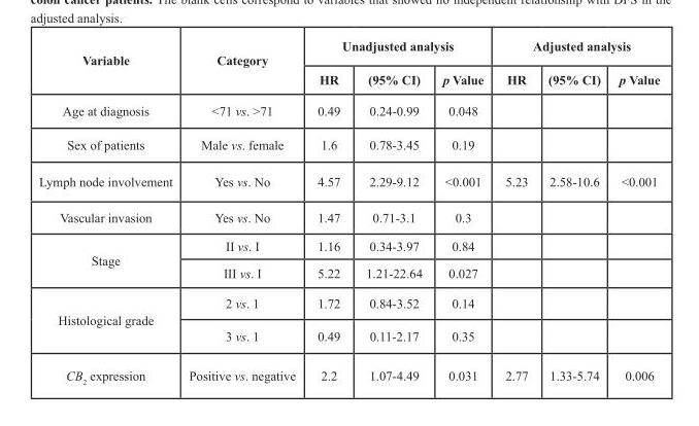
<table><thead><tr><td rowspan="2">Variable</td><td rowspan="2">Category</td><td colspan="3">Unadjusted analysis</td><td colspan="3">Adjusted analysis</td></tr><tr><td>HR</td><td>(95% CI)</td><td>p Value</td><td>HR</td><td>(95% CI)</td><td>p Value</td></tr></thead><tbody><tr><td>Age at diagnosis</td><td>&lt;71 vs. &gt;71</td><td>0.49</td><td>0.24-0.99</td><td>0.048</td><td></td><td></td><td></td></tr><tr><td>Sex of patients</td><td>Male vs. female</td><td>1.6</td><td>0.78-3.45</td><td>0.19</td><td></td><td></td><td></td></tr><tr><td>Lymph node involvement</td><td>Yes vs. No</td><td>4.57</td><td>2.29-9.12</td><td>&lt;0.001</td><td>5.23</td><td>2.58-10.6</td><td>&lt;0.001</td></tr><tr><td>Vascular invasion</td><td>Yes vs. No</td><td>1.47</td><td>0.71-3.1</td><td>0.3</td><td></td><td></td><td></td></tr><tr><td rowspan="2">Stage</td><td>II vs. I</td><td>1.16</td><td>0.34-3.97</td><td>0.84</td><td></td><td></td><td></td></tr><tr><td>III vs. I</td><td>5.22</td><td>1.21-22.64</td><td>0.027</td><td></td><td></td><td></td></tr><tr><td rowspan="2">Histological grade</td><td>2 vs. 1</td><td>1.72</td><td>0.84-3.52</td><td>0.14</td><td></td><td></td><td></td></tr><tr><td>3 vs. 1</td><td>0.49</td><td>0.11-2.17</td><td>0.35</td><td></td><td></td><td></td></tr><tr><td>CB<sub>2</sub> expression</td><td>Positive vs. negative</td><td>2.2</td><td>1.07-4.49</td><td>0.031</td><td>2.77</td><td>1.33-5.74</td><td>0.006</td></tr></tbody></table>